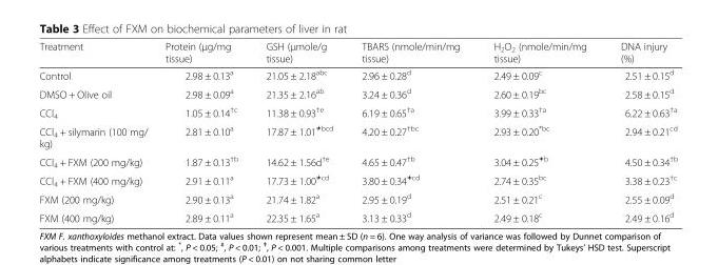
<table><thead><tr><td>Treatment</td><td>Protein (μg/mg tissue)</td><td>GSH (μmole/g tissue)</td><td>TBARS (nmole/min/mg tissue)</td><td>H<sub>2</sub>O<sub>2</sub> (nmole/min/mg tissue)</td><td>DNA injury (%)</td></tr></thead><tbody><tr><td>Control</td><td>2.98 ± 0.13<sup>a</sup></td><td>21.05 ± 2.18<sup>abc</sup></td><td>2.96 ± 0.28<sup>d</sup></td><td>2.49 ± 0.09<sup>c</sup></td><td>2.51 ± 0.15<sup>d</sup></td></tr><tr><td>DMSO + Olive oil</td><td>2.98 ± 0.09<sup>a</sup></td><td>21.35 ± 2.16<sup>ab</sup></td><td>3.24 ± 0.36<sup>d</sup></td><td>2.60 ± 0.19<sup>bc</sup></td><td>2.58 ± 0.15<sup>d</sup></td></tr><tr><td>CCl<sub>4</sub></td><td>1.05 ± 0.14<sup>†c</sup></td><td>11.38 ± 0.93<sup>†e</sup></td><td>6.19 ± 0.65<sup>†a</sup></td><td>3.99 ± 0.33<sup>†a</sup></td><td>6.22 ± 0.63<sup>†a</sup></td></tr><tr><td>CCl<sub>4</sub> + silymarin (100 mg/ kg)</td><td>2.81 ± 0.10<sup>a</sup></td><td>17.87 ± 1.01<sup>≠bcd</sup></td><td>4.20 ± 0.27<sup>†bc</sup></td><td>2.93 ± 0.20<sup>*bc</sup></td><td>2.94 ± 0.21<sup>cd</sup></td></tr><tr><td>CCl<sub>4</sub> + FXM (200 mg/kg)</td><td>1.87 ± 0.13<sup>†b</sup></td><td>14.62 ± 1.56d<sup>†e</sup></td><td>4.65 ± 0.47<sup>†b</sup></td><td>3.04 ± 0.25<sup>≠b</sup></td><td>4.50 ± 0.34<sup>†b</sup></td></tr><tr><td>CCl<sub>4</sub> + FXM (400 mg/kg)</td><td>2.91 ± 0.11<sup>a</sup></td><td>17.73 ± 1.00<sup>≠cd</sup></td><td>3.80 ± 0.34<sup>≠cd</sup></td><td>2.74 ± 0.35<sup>bc</sup></td><td>3.38 ± 0.23<sup>†c</sup></td></tr><tr><td>FXM (200 mg/kg)</td><td>2.90 ± 0.13<sup>a</sup></td><td>21.74 ± 1.82<sup>a</sup></td><td>2.95 ± 0.19<sup>d</sup></td><td>2.51 ± 0.21<sup>c</sup></td><td>2.55 ± 0.09<sup>d</sup></td></tr><tr><td>FXM (400 mg/kg)</td><td>2.89 ± 0.11<sup>a</sup></td><td>22.35 ± 1.65<sup>a</sup></td><td>3.13 ± 0.33<sup>d</sup></td><td>2.49 ± 0.18<sup>c</sup></td><td>2.49 ± 0.16<sup>d</sup></td></tr></tbody></table>